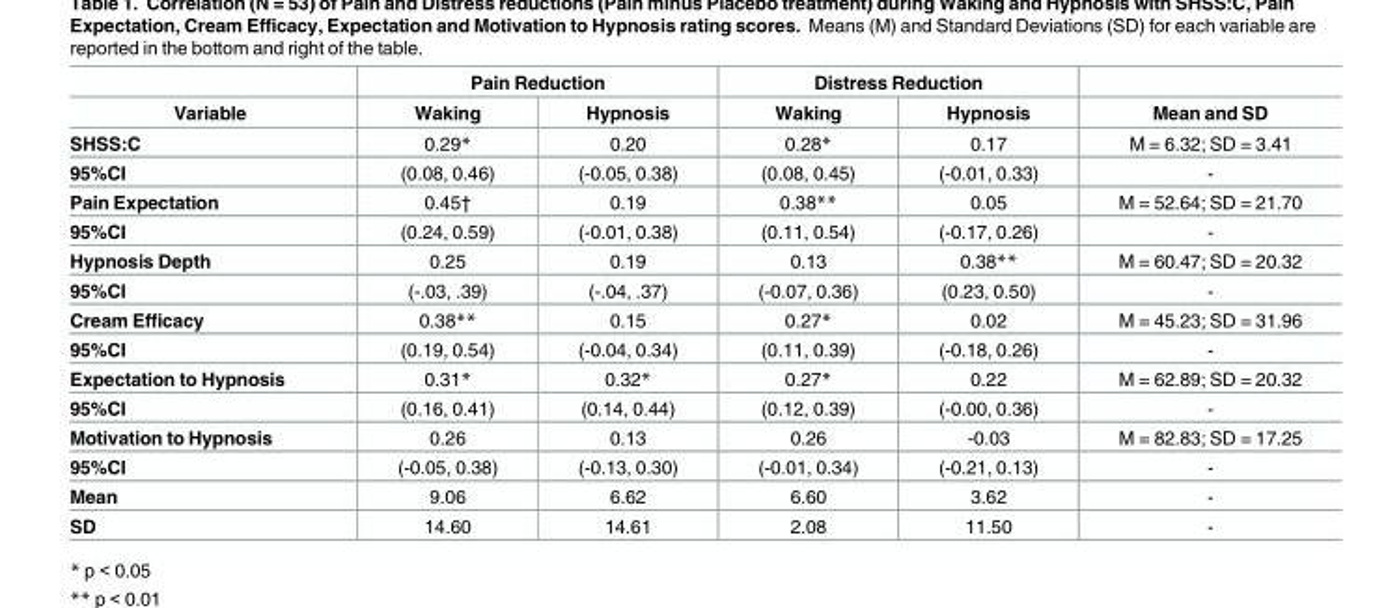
<table><thead><tr><td rowspan="2">Variable</td><td colspan="2">Pain Reduction</td><td colspan="2">Distress Reduction</td><td rowspan="2">Mean and SD</td></tr><tr><td>Waking</td><td>Hypnosis</td><td>Waking</td><td>Hypnosis</td></tr></thead><tbody><tr><td>SHSS:C</td><td>0.29*</td><td>0.20</td><td>0.28*</td><td>0.17</td><td>M = 6.32; SD = 3.41</td></tr><tr><td>95%CI</td><td>(0.08, 0.46)</td><td>(-0.05, 0.38)</td><td>(0.08, 0.45)</td><td>(-0.01, 0.33)</td><td>-</td></tr><tr><td>Pain Expectation</td><td>0.45†</td><td>0.19</td><td>0.38**</td><td>0.05</td><td>M = 52.64; SD = 21.70</td></tr><tr><td>95%CI</td><td>(0.24, 0.59)</td><td>(-0.01, 0.38)</td><td>(0.11, 0.54)</td><td>(-0.17, 0.26)</td><td>-</td></tr><tr><td>Hypnosis Depth</td><td>0.25</td><td>0.19</td><td>0.13</td><td>0.38**</td><td>M = 60.47; SD = 20.32</td></tr><tr><td>95%CI</td><td>(-.03, .39)</td><td>(-.04, .37)</td><td>(-0.07, 0.36)</td><td>(0.23, 0.50)</td><td>-</td></tr><tr><td>Cream Efficacy</td><td>0.38**</td><td>0.15</td><td>0.27*</td><td>0.02</td><td>M = 45.23; SD = 31.96</td></tr><tr><td>95%CI</td><td>(0.19, 0.54)</td><td>(-0.04, 0.34)</td><td>(0.11, 0.39)</td><td>(-0.18, 0.26)</td><td>-</td></tr><tr><td>Expectation to Hypnosis</td><td>0.31*</td><td>0.32*</td><td>0.27*</td><td>0.22</td><td>M = 62.89; SD = 20.32</td></tr><tr><td>95%CI</td><td>(0.16, 0.41)</td><td>(0.14, 0.44)</td><td>(0.12, 0.39)</td><td>(-0.00, 0.36)</td><td>-</td></tr><tr><td>Motivation to Hypnosis</td><td>0.26</td><td>0.13</td><td>0.26</td><td>-0.03</td><td>M = 82.83; SD = 17.25</td></tr><tr><td>95%CI</td><td>(-0.05, 0.38)</td><td>(-0.13, 0.30)</td><td>(-0.01, 0.34)</td><td>(-0.21, 0.13)</td><td>-</td></tr><tr><td>Mean</td><td>9.06</td><td>6.62</td><td>6.60</td><td>3.62</td><td>-</td></tr><tr><td>SD</td><td>14.60</td><td>14.61</td><td>2.08</td><td>11.50</td><td>-</td></tr></tbody></table>